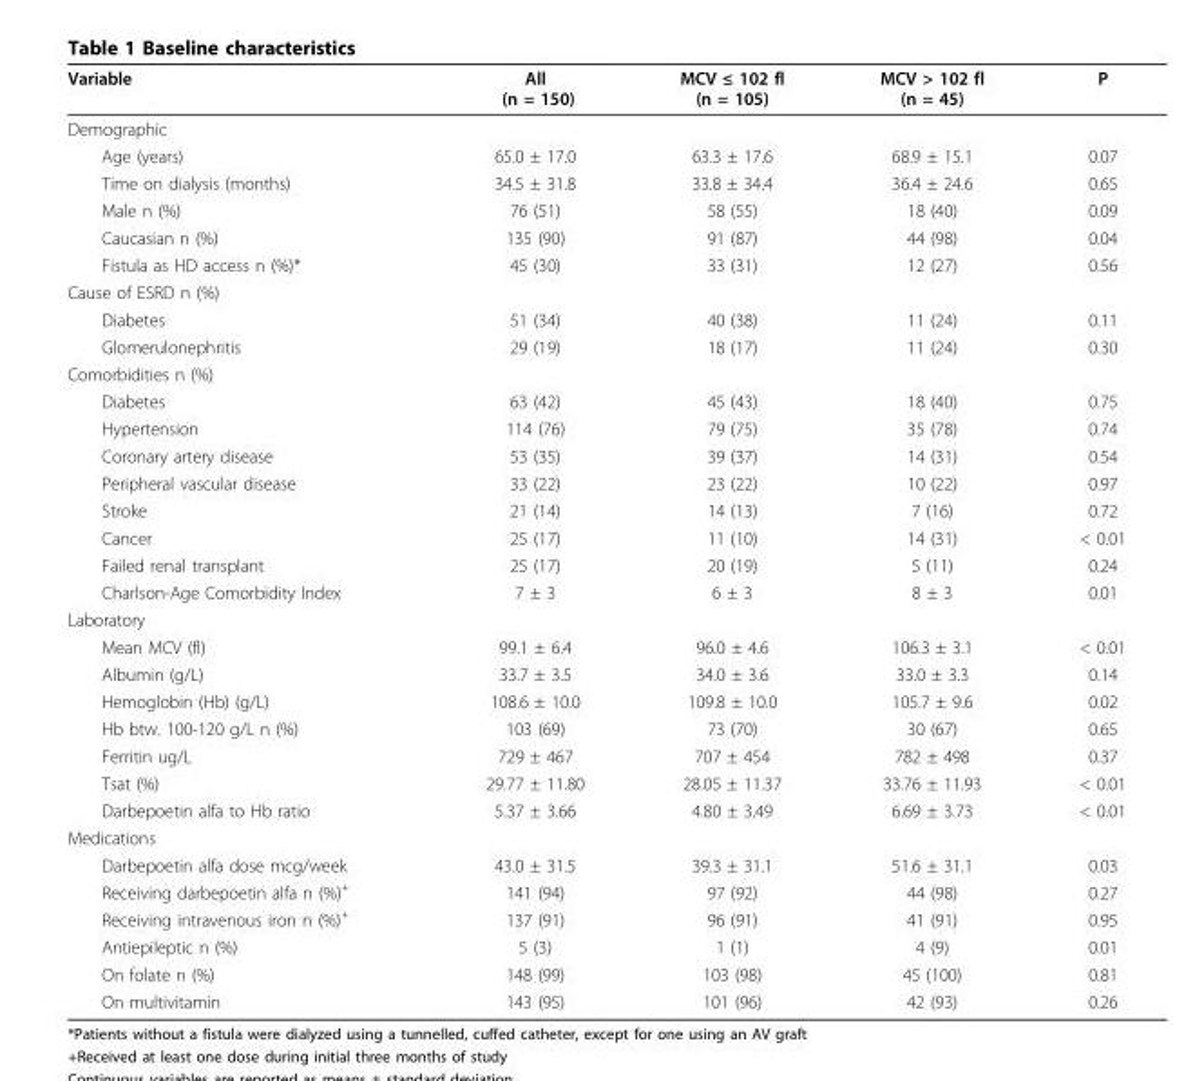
<table><thead><tr><td>Variable</td><td>All (n = 150)</td><td>MCV ≤ 102 fl (n = 105)</td><td>MCV &gt; 102 fl (n = 45)</td><td>P</td></tr></thead><tbody><tr><td colspan="5">Demographic</td></tr><tr><td>Age (years)</td><td>65.0 ± 17.0</td><td>63.3 ± 17.6</td><td>68.9 ± 15.1</td><td>0.07</td></tr><tr><td>Time on dialysis (months)</td><td>34.5 ± 31.8</td><td>33.8 ± 34.4</td><td>36.4 ± 24.6</td><td>0.65</td></tr><tr><td>Male n (%)</td><td>76 (51)</td><td>58 (55)</td><td>18 (40)</td><td>0.09</td></tr><tr><td>Caucasian n (%)</td><td>135 (90)</td><td>91 (87)</td><td>44 (98)</td><td>0.04</td></tr><tr><td>Fistula as HD access n (%)*</td><td>45 (30)</td><td>33 (31)</td><td>12 (27)</td><td>0.56</td></tr><tr><td colspan="5">Cause of ESRD n (%)</td></tr><tr><td>Diabetes</td><td>51 (34)</td><td>40 (38)</td><td>11 (24)</td><td>0.11</td></tr><tr><td>Glomerulonephritis</td><td>29 (19)</td><td>18 (17)</td><td>11 (24)</td><td>0.30</td></tr><tr><td colspan="5">Comorbidities n (%)</td></tr><tr><td>Diabetes</td><td>63 (42)</td><td>45 (43)</td><td>18 (40)</td><td>0.75</td></tr><tr><td>Hypertension</td><td>114 (76)</td><td>79 (75)</td><td>35 (78)</td><td>0.74</td></tr><tr><td>Coronary artery disease</td><td>53 (35)</td><td>39 (37)</td><td>14 (31)</td><td>0.54</td></tr><tr><td>Peripheral vascular disease</td><td>33 (22)</td><td>23 (22)</td><td>10 (22)</td><td>0.97</td></tr><tr><td>Stroke</td><td>21 (14)</td><td>14 (13)</td><td>7 (16)</td><td>0.72</td></tr><tr><td>Cancer</td><td>25 (17)</td><td>11 (10)</td><td>14 (31)</td><td>&lt; 0.01</td></tr><tr><td>Failed renal transplant</td><td>25 (17)</td><td>20 (19)</td><td>5 (11)</td><td>0.24</td></tr><tr><td>Charlson-Age Comorbidity Index</td><td>7 ± 3</td><td>6 ± 3</td><td>8 ± 3</td><td>0.01</td></tr><tr><td colspan="5">Laboratory</td></tr><tr><td>Mean MCV (fl)</td><td>99.1 ± 6.4</td><td>96.0 ± 4.6</td><td>106.3 ± 3.1</td><td>&lt; 0.01</td></tr><tr><td>Albumin (g/L)</td><td>33.7 ± 3.5</td><td>34.0 ± 3.6</td><td>33.0 ± 3.3</td><td>0.14</td></tr><tr><td>Hemoglobin (Hb) (g/L)</td><td>108.6 ± 10.0</td><td>109.8 ± 10.0</td><td>105.7 ± 9.6</td><td>0.02</td></tr><tr><td>Hb btw. 100-120 g/L n (%)</td><td>103 (69)</td><td>73 (70)</td><td>30 (67)</td><td>0.65</td></tr><tr><td>Ferritin ug/L</td><td>729 ± 467</td><td>707 ± 454</td><td>782 ± 498</td><td>0.37</td></tr><tr><td>Tsat (%)</td><td>29.77 ± 11.80</td><td>28.05 ± 11.37</td><td>33.76 ± 11.93</td><td>&lt; 0.01</td></tr><tr><td>Darbepoetin alfa to Hb ratio</td><td>5.37 ± 3.66</td><td>4.80 ± 3.49</td><td>6.69 ± 3.73</td><td>&lt; 0.01</td></tr><tr><td colspan="5">Medications</td></tr><tr><td>Darbepoetin alfa dose mcg/week</td><td>43.0 ± 31.5</td><td>39.3 ± 31.1</td><td>51.6 ± 31.1</td><td>0.03</td></tr><tr><td>Receiving darbepoetin alfa n (%)<sup>+</sup></td><td>141 (94)</td><td>97 (92)</td><td>44 (98)</td><td>0.27</td></tr><tr><td>Receiving intravenous iron n (%)<sup>+</sup></td><td>137 (91)</td><td>96 (91)</td><td>41 (91)</td><td>0.95</td></tr><tr><td>Antiepileptic n (%)</td><td>5 (3)</td><td>1 (1)</td><td>4 (9)</td><td>0.01</td></tr><tr><td>On folate n (%)</td><td>148 (99)</td><td>103 (98)</td><td>45 (100)</td><td>0.81</td></tr><tr><td>On multivitamin</td><td>143 (95)</td><td>101 (96)</td><td>42 (93)</td><td>0.26</td></tr></tbody></table>